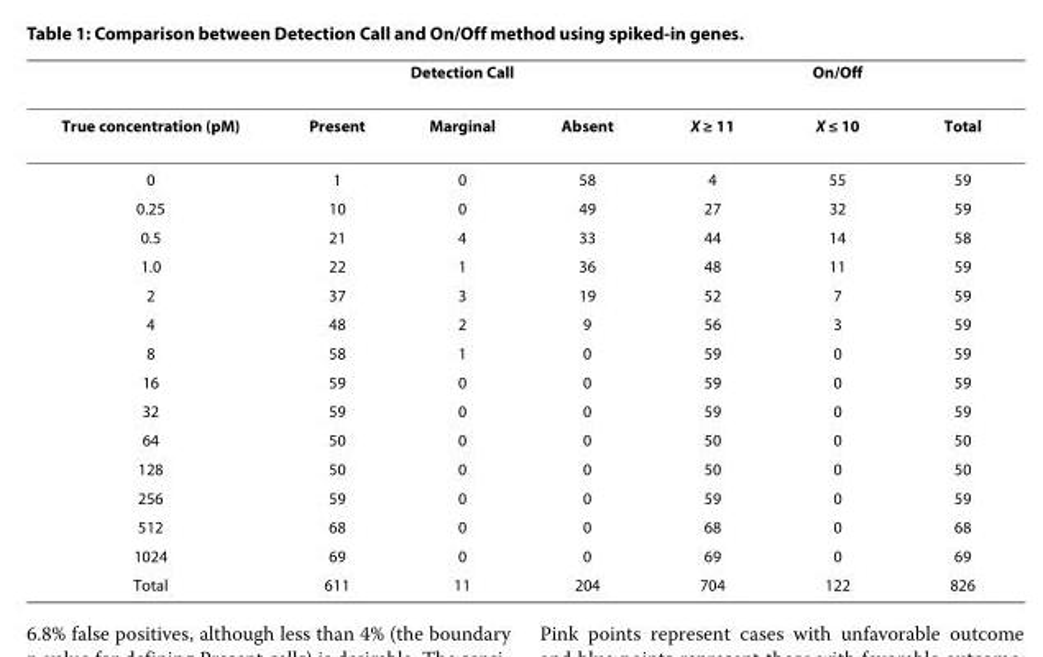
<table><thead><tr><td rowspan="2">True concentration (pM)</td><td colspan="3">Detection Call</td><td colspan="3">On/Off</td></tr><tr><td>Present</td><td>Marginal</td><td>Absent</td><td>X ≥ 11</td><td>X ≤ 10</td><td>Total</td></tr></thead><tbody><tr><td>0</td><td>1</td><td>0</td><td>58</td><td>4</td><td>55</td><td>59</td></tr><tr><td>0.25</td><td>10</td><td>0</td><td>49</td><td>27</td><td>32</td><td>59</td></tr><tr><td>0.5</td><td>21</td><td>4</td><td>33</td><td>44</td><td>14</td><td>58</td></tr><tr><td>1.0</td><td>22</td><td>1</td><td>36</td><td>48</td><td>11</td><td>59</td></tr><tr><td>2</td><td>37</td><td>3</td><td>19</td><td>52</td><td>7</td><td>59</td></tr><tr><td>4</td><td>48</td><td>2</td><td>9</td><td>56</td><td>3</td><td>59</td></tr><tr><td>8</td><td>58</td><td>1</td><td>0</td><td>59</td><td>0</td><td>59</td></tr><tr><td>16</td><td>59</td><td>0</td><td>0</td><td>59</td><td>0</td><td>59</td></tr><tr><td>32</td><td>59</td><td>0</td><td>0</td><td>59</td><td>0</td><td>59</td></tr><tr><td>64</td><td>50</td><td>0</td><td>0</td><td>50</td><td>0</td><td>50</td></tr><tr><td>128</td><td>50</td><td>0</td><td>0</td><td>50</td><td>0</td><td>50</td></tr><tr><td>256</td><td>59</td><td>0</td><td>0</td><td>59</td><td>0</td><td>59</td></tr><tr><td>512</td><td>68</td><td>0</td><td>0</td><td>68</td><td>0</td><td>68</td></tr><tr><td>1024</td><td>69</td><td>0</td><td>0</td><td>69</td><td>0</td><td>69</td></tr><tr><td>Total</td><td>611</td><td>11</td><td>204</td><td>704</td><td>122</td><td>826</td></tr></tbody></table>